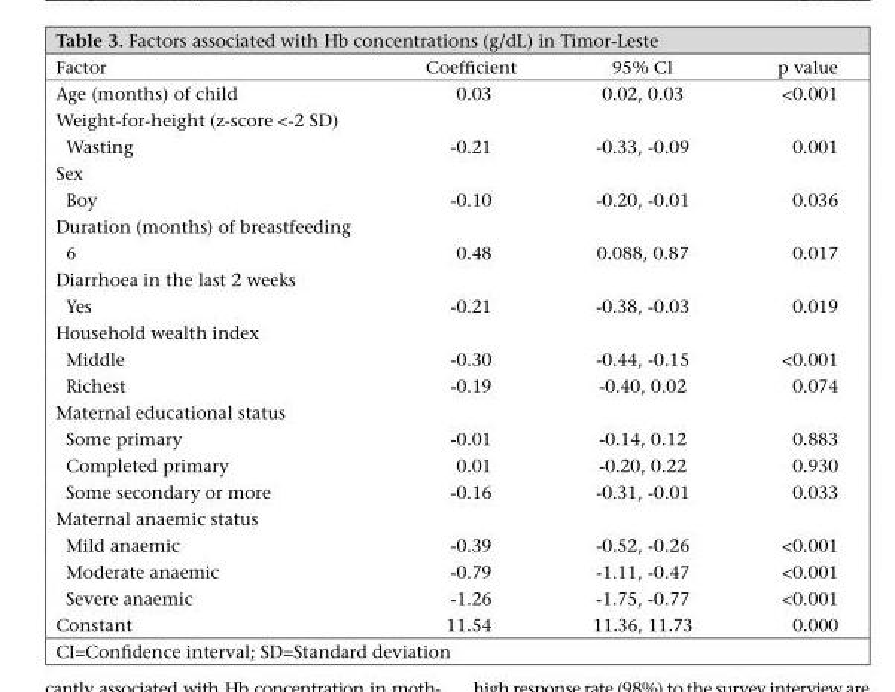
<table><thead><tr><td>Factor</td><td>Coefficient</td><td>95% Cl</td><td>p value</td></tr></thead><tbody><tr><td>Age (months) of child</td><td>0.03</td><td>0.02, 0.03</td><td>&lt;0.001</td></tr><tr><td colspan="4">Weight-for-height (z-score &lt;-2 SD)</td></tr><tr><td>Wasting</td><td>-0.21</td><td>-0.33, -0.09</td><td>0.001</td></tr><tr><td colspan="4">Sex</td></tr><tr><td>Boy</td><td>-0.10</td><td>-0.20, -0.01</td><td>0.036</td></tr><tr><td colspan="4">Duration (months) of breastfeeding</td></tr><tr><td>6</td><td>0.48</td><td>0.088, 0.87</td><td>0.017</td></tr><tr><td colspan="4">Diarrhoea in the last 2 weeks</td></tr><tr><td>Yes</td><td>-0.21</td><td>-0.38, -0.03</td><td>0.019</td></tr><tr><td colspan="4">Household wealth index</td></tr><tr><td>Middle</td><td>-0.30</td><td>-0.44, -0.15</td><td>&lt;0.001</td></tr><tr><td>Richest</td><td>-0.19</td><td>-0.40, 0.02</td><td>0.074</td></tr><tr><td colspan="4">Maternal educational status</td></tr><tr><td>Some primary</td><td>-0.01</td><td>-0.14, 0.12</td><td>0.883</td></tr><tr><td>Completed primary</td><td>0.01</td><td>-0.20, 0.22</td><td>0.930</td></tr><tr><td>Some secondary or more</td><td>-0.16</td><td>-0.31, -0.01</td><td>0.033</td></tr><tr><td colspan="4">Maternal anaemic status</td></tr><tr><td>Mild anaemic</td><td>-0.39</td><td>-0.52, -0.26</td><td>&lt;0.001</td></tr><tr><td>Moderate anaemic</td><td>-0.79</td><td>-1.11, -0.47</td><td>&lt;0.001</td></tr><tr><td>Severe anaemic</td><td>-1.26</td><td>-1.75, -0.77</td><td>&lt;0.001</td></tr><tr><td>Constant</td><td>11.54</td><td>11.36, 11.73</td><td>0.000</td></tr></tbody></table>